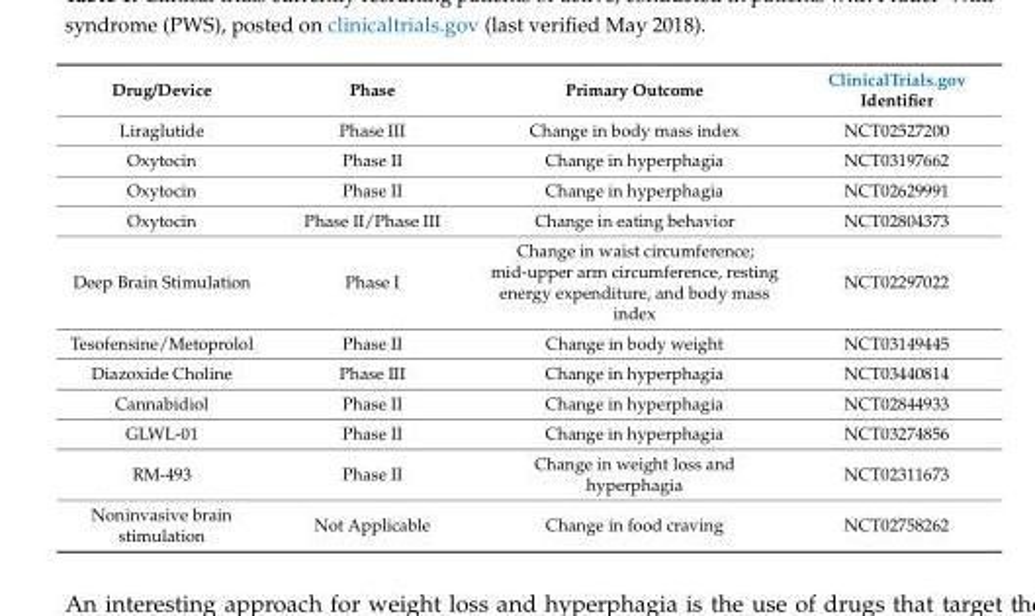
<table><thead><tr><td>Drug/Device</td><td>Phase</td><td>Primary Outcome</td><td>ClinicalTrials.gov Identifier</td></tr></thead><tbody><tr><td>Liraglutide</td><td>Phase III</td><td>Change in body mass index</td><td>NCT02527200</td></tr><tr><td>Oxytocin</td><td>Phase II</td><td>Change in hyperphagia</td><td>NCT03197662</td></tr><tr><td>Oxytocin</td><td>Phase II</td><td>Change in hyperphagia</td><td>NCT02629991</td></tr><tr><td>Oxytocin</td><td>Phase II/Phase III</td><td>Change in eating behavior</td><td>NCT02804373</td></tr><tr><td>Deep Brain Stimulation</td><td>Phase I</td><td>Change in waist circumference; mid-upper arm circumference, resting energy expenditure, and body mass index</td><td>NCT02297022</td></tr><tr><td>Tesofensine/Metoprolol</td><td>Phase II</td><td>Change in body weight</td><td>NCT03149445</td></tr><tr><td>Diazoxide Choline</td><td>Phase III</td><td>Change in hyperphagia</td><td>NCT03440814</td></tr><tr><td>Cannabidiol</td><td>Phase II</td><td>Change in hyperphagia</td><td>NCT02844933</td></tr><tr><td>GLWL-01</td><td>Phase II</td><td>Change in hyperphagia</td><td>NCT03274856</td></tr><tr><td>RM-493</td><td>Phase II</td><td>Change in weight loss and hyperphagia</td><td>NCT02311673</td></tr><tr><td>Noninvasive brain stimulation</td><td>Not Applicable</td><td>Change in food craving</td><td>NCT02758262</td></tr></tbody></table>